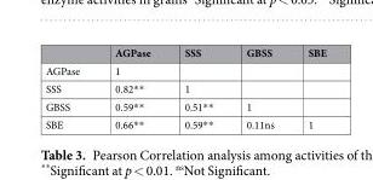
<table><thead><tr><td></td><td>AGPase</td><td>SSS</td><td>GBSS</td><td>SBE</td></tr></thead><tbody><tr><td>AGPase</td><td>1</td><td></td><td></td><td></td></tr><tr><td>SSS</td><td>0.82**</td><td>1</td><td></td><td></td></tr><tr><td>GBSS</td><td>0.59**</td><td>0.51**</td><td>1</td><td></td></tr><tr><td>SBE</td><td>0.66**</td><td>0.59**</td><td>0.11ns</td><td>1</td></tr></tbody></table>